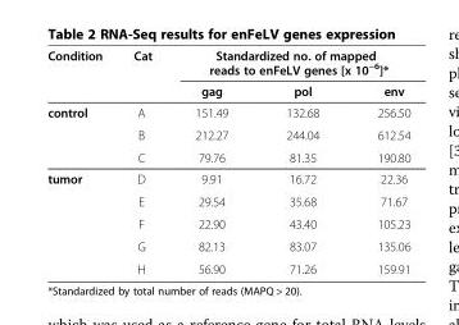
<table><thead><tr><td rowspan="2">Condition</td><td rowspan="2">Cat</td><td colspan="3">Standardized no. of mapped reads to enFeLV genes [x 10<sup>−6</sup>]*</td></tr><tr><td>gag</td><td>pol</td><td>env</td></tr></thead><tbody><tr><td rowspan="3">control</td><td>A</td><td>151.49</td><td>132.68</td><td>256.50</td></tr><tr><td>B</td><td>212.27</td><td>244.04</td><td>612.54</td></tr><tr><td>C</td><td>79.76</td><td>81.35</td><td>190.80</td></tr><tr><td rowspan="5">tumor</td><td>D</td><td>9.91</td><td>16.72</td><td>22.36</td></tr><tr><td>E</td><td>29.54</td><td>35.68</td><td>71.67</td></tr><tr><td>F</td><td>22.90</td><td>43.40</td><td>105.23</td></tr><tr><td>G</td><td>82.13</td><td>83.07</td><td>135.06</td></tr><tr><td>H</td><td>56.90</td><td>71.26</td><td>159.91</td></tr></tbody></table>